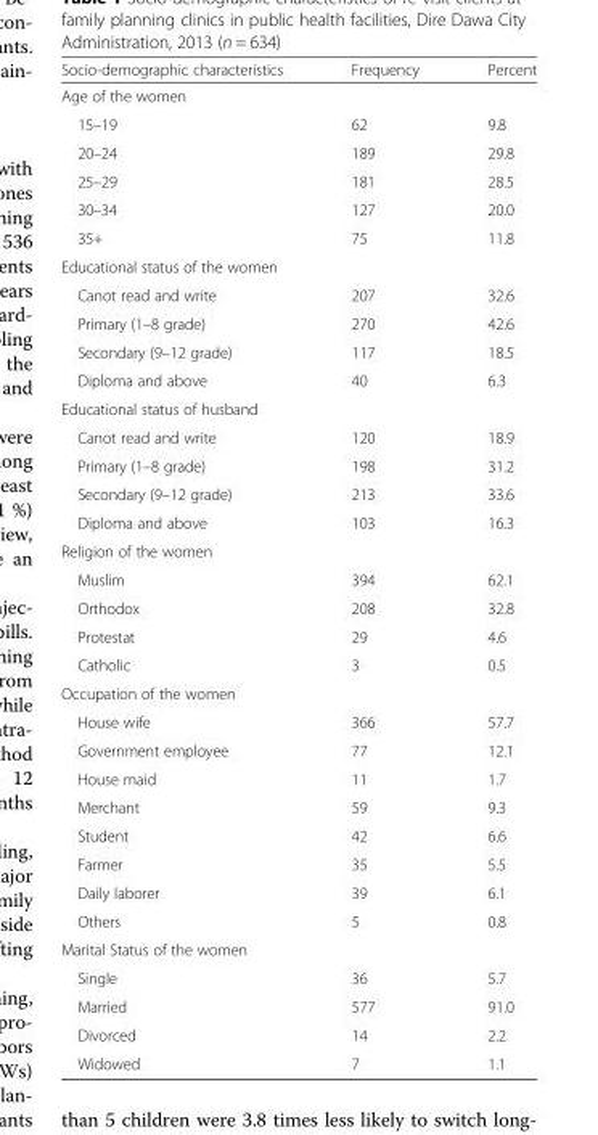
<table><thead><tr><td>Socio-demographic characteristics</td><td>Frequency</td><td>Percent</td></tr></thead><tbody><tr><td colspan="3">Age of the women</td></tr><tr><td>15–19</td><td>62</td><td>9.8</td></tr><tr><td>20–24</td><td>189</td><td>29.8</td></tr><tr><td>25–29</td><td>181</td><td>28.5</td></tr><tr><td>30–34</td><td>127</td><td>20.0</td></tr><tr><td>35+</td><td>75</td><td>11.8</td></tr><tr><td colspan="3">Educational status of the women</td></tr><tr><td>Canot read and write</td><td>207</td><td>32.6</td></tr><tr><td>Primary (1–8 grade)</td><td>270</td><td>42.6</td></tr><tr><td>Secondary (9–12 grade)</td><td>117</td><td>18.5</td></tr><tr><td>Diploma and above</td><td>40</td><td>6.3</td></tr><tr><td colspan="3">Educational status of husband</td></tr><tr><td>Canot read and write</td><td>120</td><td>18.9</td></tr><tr><td>Primary (1–8 grade)</td><td>198</td><td>31.2</td></tr><tr><td>Secondary (9–12 grade)</td><td>213</td><td>33.6</td></tr><tr><td>Diploma and above</td><td>103</td><td>16.3</td></tr><tr><td colspan="3">Religion of the women</td></tr><tr><td>Muslim</td><td>394</td><td>62.1</td></tr><tr><td>Orthodox</td><td>208</td><td>32.8</td></tr><tr><td>Protestat</td><td>29</td><td>4.6</td></tr><tr><td>Catholic</td><td>3</td><td>0.5</td></tr><tr><td colspan="3">Occupation of the women</td></tr><tr><td>House wife</td><td>366</td><td>57.7</td></tr><tr><td>Government employee</td><td>77</td><td>12.1</td></tr><tr><td>House maid</td><td>11</td><td>1.7</td></tr><tr><td>Merchant</td><td>59</td><td>9.3</td></tr><tr><td>Student</td><td>42</td><td>6.6</td></tr><tr><td>Farmer</td><td>35</td><td>5.5</td></tr><tr><td>Daily laborer</td><td>39</td><td>6.1</td></tr><tr><td>Others</td><td>5</td><td>0.8</td></tr><tr><td colspan="3">Marital Status of the women</td></tr><tr><td>Single</td><td>36</td><td>5.7</td></tr><tr><td>Married</td><td>577</td><td>91.0</td></tr><tr><td>Divorced</td><td>14</td><td>2.2</td></tr><tr><td>Widowed</td><td>7</td><td>1.1</td></tr></tbody></table>